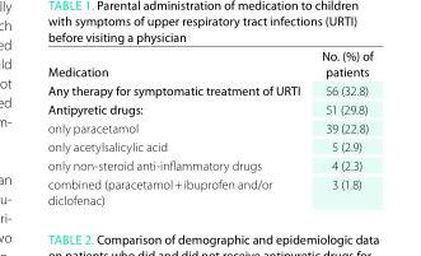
<table><thead><tr><td>medication</td><td>no. (%) of patients</td></tr></thead><tbody><tr><td>Any therapy for symptomatic treatment of uRTi</td><td>56 (32.8)</td></tr><tr><td>Antipyretic drugs:</td><td>51 (29.8)</td></tr><tr><td>only paracetamol</td><td>39 (22.8)</td></tr><tr><td>only acetylsalicylic acid</td><td>5 (2.9)</td></tr><tr><td>only non-steroid anti-inflammatory drugs</td><td>4 (2.3)</td></tr><tr><td>combined (paracetamol + ibuprofen and/or diclofenac)</td><td>3 (1.8)</td></tr></tbody></table>